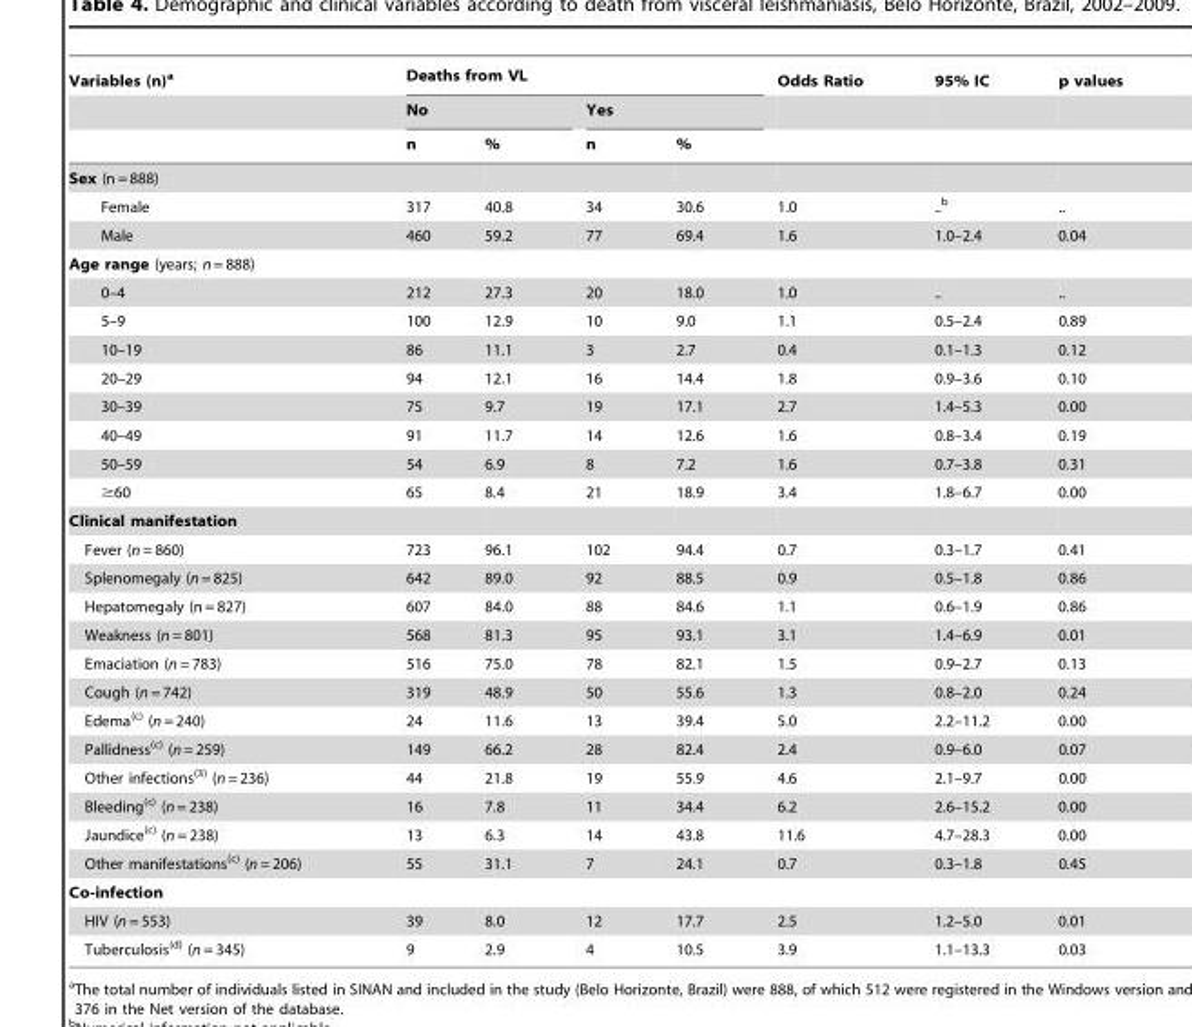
<table><thead><tr><td rowspan="3">Variables (n)<sup>a</sup></td><td colspan="4">Deaths from VL</td><td rowspan="3">Odds Ratio</td><td rowspan="3">95% IC</td><td rowspan="3">p values</td></tr><tr><td colspan="2">No</td><td colspan="2">Yes</td></tr><tr><td>n</td><td>%</td><td>n</td><td>%</td></tr></thead><tbody><tr><td colspan="8">Sex (n = 888)</td></tr><tr><td>Female</td><td>317</td><td>40.8</td><td>34</td><td>30.6</td><td>1.0</td><td>..<sup>b</sup></td><td>..</td></tr><tr><td>Male</td><td>460</td><td>59.2</td><td>77</td><td>69.4</td><td>1.6</td><td>1.0–2.4</td><td>0.04</td></tr><tr><td colspan="8">Age range (years; n = 888)</td></tr><tr><td>0–4</td><td>212</td><td>27.3</td><td>20</td><td>18.0</td><td>1.0</td><td>..</td><td>..</td></tr><tr><td>5–9</td><td>100</td><td>12.9</td><td>10</td><td>9.0</td><td>1.1</td><td>0.5–2.4</td><td>0.89</td></tr><tr><td>10–19</td><td>86</td><td>11.1</td><td>3</td><td>2.7</td><td>0.4</td><td>0.1–1.3</td><td>0.12</td></tr><tr><td>20–29</td><td>94</td><td>12.1</td><td>16</td><td>14.4</td><td>1.8</td><td>0.9–3.6</td><td>0.10</td></tr><tr><td>30–39</td><td>75</td><td>9.7</td><td>19</td><td>17.1</td><td>2.7</td><td>1.4–5.3</td><td>0.00</td></tr><tr><td>40–49</td><td>91</td><td>11.7</td><td>14</td><td>12.6</td><td>1.6</td><td>0.8–3.4</td><td>0.19</td></tr><tr><td>50–59</td><td>54</td><td>6.9</td><td>8</td><td>7.2</td><td>1.6</td><td>0.7–3.8</td><td>0.31</td></tr><tr><td>≥60</td><td>65</td><td>8.4</td><td>21</td><td>18.9</td><td>3.4</td><td>1.8–6.7</td><td>0.00</td></tr><tr><td colspan="8">Clinical manifestation</td></tr><tr><td>Fever (n = 860)</td><td>723</td><td>96.1</td><td>102</td><td>94.4</td><td>0.7</td><td>0.3–1.7</td><td>0.41</td></tr><tr><td>Splenomegaly (n = 825)</td><td>642</td><td>89.0</td><td>92</td><td>88.5</td><td>0.9</td><td>0.5–1.8</td><td>0.86</td></tr><tr><td>Hepatomegaly (n = 827)</td><td>607</td><td>84.0</td><td>88</td><td>84.6</td><td>1.1</td><td>0.6–1.9</td><td>0.86</td></tr><tr><td>Weakness (n = 801)</td><td>568</td><td>81.3</td><td>95</td><td>93.1</td><td>3.1</td><td>1.4–6.9</td><td>0.01</td></tr><tr><td>Emaciation (n = 783)</td><td>516</td><td>75.0</td><td>78</td><td>82.1</td><td>1.5</td><td>0.9–2.7</td><td>0.13</td></tr><tr><td>Cough (n = 742)</td><td>319</td><td>48.9</td><td>50</td><td>55.6</td><td>1.3</td><td>0.8–2.0</td><td>0.24</td></tr><tr><td>Edema(c) (n = 240)</td><td>24</td><td>11.6</td><td>13</td><td>39.4</td><td>5.0</td><td>2.2–11.2</td><td>0.00</td></tr><tr><td>Pallidness(c) (n = 259)</td><td>149</td><td>66.2</td><td>28</td><td>82.4</td><td>2.4</td><td>0.9–6.0</td><td>0.07</td></tr><tr><td>Other infections<sup>(3)</sup> (n = 236)</td><td>44</td><td>21.8</td><td>19</td><td>55.9</td><td>4.6</td><td>2.1–9.7</td><td>0.00</td></tr><tr><td>Bleeding(c) (n = 238)</td><td>16</td><td>7.8</td><td>11</td><td>34.4</td><td>6.2</td><td>2.6–15.2</td><td>0.00</td></tr><tr><td>Jaundice(c) (n = 238)</td><td>13</td><td>6.3</td><td>14</td><td>43.8</td><td>11.6</td><td>4.7–28.3</td><td>0.00</td></tr><tr><td>Other manifestations(c) (n = 206)</td><td>55</td><td>31.1</td><td>7</td><td>24.1</td><td>0.7</td><td>0.3–1.8</td><td>0.45</td></tr><tr><td colspan="8">Co-infection</td></tr><tr><td>HIV (n = 553)</td><td>39</td><td>8.0</td><td>12</td><td>17.7</td><td>2.5</td><td>1.2–5.0</td><td>0.01</td></tr><tr><td>Tuberculosis(d) (n = 345)</td><td>9</td><td>2.9</td><td>4</td><td>10.5</td><td>3.9</td><td>1.1–13.3</td><td>0.03</td></tr></tbody></table>